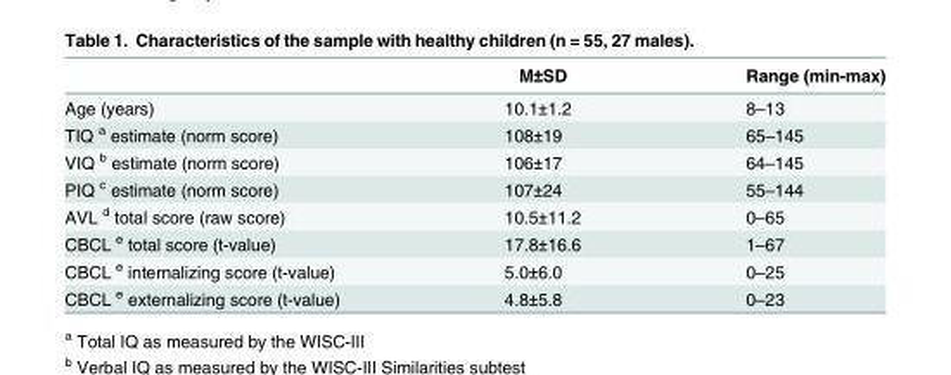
<table><thead><tr><td></td><td>M±SD</td><td>Range (min-max)</td></tr></thead><tbody><tr><td>Age (years)</td><td>10.1±1.2</td><td>8–13</td></tr><tr><td>TIQ <sup>a</sup> estimate (norm score)</td><td>108±19</td><td>65–145</td></tr><tr><td>VIQ <sup>b</sup> estimate (norm score)</td><td>106±17</td><td>64–145</td></tr><tr><td>PIQ <sup>c</sup> estimate (norm score)</td><td>107±24</td><td>55–144</td></tr><tr><td>AVL <sup>d</sup> total score (raw score)</td><td>10.5±11.2</td><td>0–65</td></tr><tr><td>CBCL <sup>e</sup> total score (t-value)</td><td>17.8±16.6</td><td>1–67</td></tr><tr><td>CBCL <sup>e</sup> internalizing score (t-value)</td><td>5.0±6.0</td><td>0–25</td></tr><tr><td>CBCL <sup>e</sup> externalizing score (t-value)</td><td>4.8±5.8</td><td>0–23</td></tr></tbody></table>